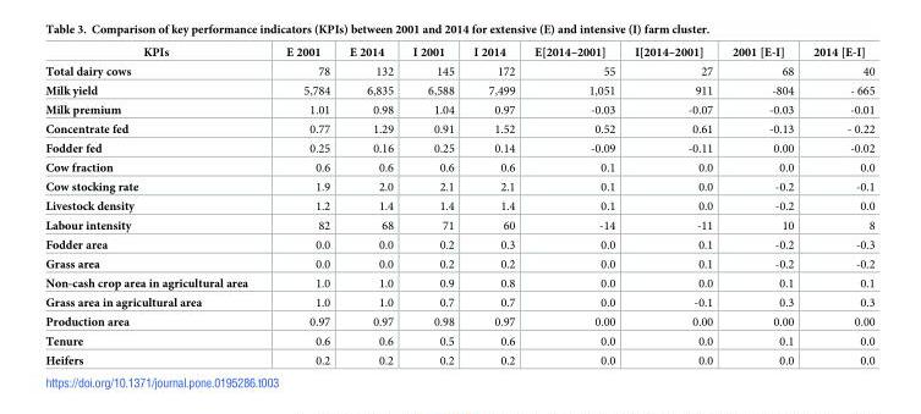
<table><thead><tr><td>KPIs</td><td>E 2001</td><td>E 2014</td><td>I 2001</td><td>I 2014</td><td>E[2014–2001]</td><td>I[2014–2001]</td><td>2001 [E-I]</td><td>2014 [E-I]</td></tr></thead><tbody><tr><td>Total dairy cows</td><td>78</td><td>132</td><td>145</td><td>172</td><td>55</td><td>27</td><td>68</td><td>40</td></tr><tr><td>Milk yield</td><td>5,784</td><td>6,835</td><td>6,588</td><td>7,499</td><td>1,051</td><td>911</td><td>-804</td><td>- 665</td></tr><tr><td>Milk premium</td><td>1.01</td><td>0.98</td><td>1.04</td><td>0.97</td><td>-0.03</td><td>-0.07</td><td>-0.03</td><td>-0.01</td></tr><tr><td>Concentrate fed</td><td>0.77</td><td>1.29</td><td>0.91</td><td>1.52</td><td>0.52</td><td>0.61</td><td>-0.13</td><td>- 0.22</td></tr><tr><td>Fodder fed</td><td>0.25</td><td>0.16</td><td>0.25</td><td>0.14</td><td>-0.09</td><td>-0.11</td><td>0.00</td><td>-0.02</td></tr><tr><td>Cow fraction</td><td>0.6</td><td>0.6</td><td>0.6</td><td>0.6</td><td>0.1</td><td>0.0</td><td>0.0</td><td>0.0</td></tr><tr><td>Cow stocking rate</td><td>1.9</td><td>2.0</td><td>2.1</td><td>2.1</td><td>0.1</td><td>0.0</td><td>-0.2</td><td>-0.1</td></tr><tr><td>Livestock density</td><td>1.2</td><td>1.4</td><td>1.4</td><td>1.4</td><td>0.1</td><td>0.0</td><td>-0.2</td><td>0.0</td></tr><tr><td>Labour intensity</td><td>82</td><td>68</td><td>71</td><td>60</td><td>-14</td><td>-11</td><td>10</td><td>8</td></tr><tr><td>Fodder area</td><td>0.0</td><td>0.0</td><td>0.2</td><td>0.3</td><td>0.0</td><td>0.1</td><td>-0.2</td><td>-0.3</td></tr><tr><td>Grass area</td><td>0.0</td><td>0.0</td><td>0.2</td><td>0.2</td><td>0.0</td><td>0.1</td><td>-0.2</td><td>-0.2</td></tr><tr><td>Non-cash crop area in agricultural area</td><td>1.0</td><td>1.0</td><td>0.9</td><td>0.8</td><td>0.0</td><td>0.0</td><td>0.1</td><td>0.1</td></tr><tr><td>Grass area in agricultural area</td><td>1.0</td><td>1.0</td><td>0.7</td><td>0.7</td><td>0.0</td><td>-0.1</td><td>0.3</td><td>0.3</td></tr><tr><td>Production area</td><td>0.97</td><td>0.97</td><td>0.98</td><td>0.97</td><td>0.00</td><td>0.00</td><td>0.00</td><td>0.00</td></tr><tr><td>Tenure</td><td>0.6</td><td>0.6</td><td>0.5</td><td>0.6</td><td>0.0</td><td>0.0</td><td>0.1</td><td>0.0</td></tr><tr><td>Heifers</td><td>0.2</td><td>0.2</td><td>0.2</td><td>0.2</td><td>0.0</td><td>0.0</td><td>0.0</td><td>0.0</td></tr></tbody></table>